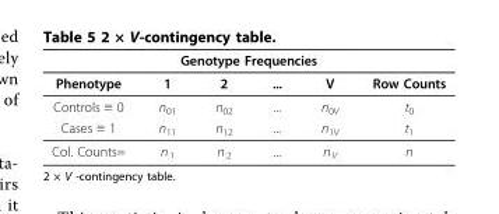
<table><thead><tr><td rowspan="2">Phenotype</td><td colspan="4">Genotype Frequencies</td><td rowspan="2">Row Counts</td></tr><tr><td>1</td><td>2</td><td>...</td><td>V</td></tr></thead><tbody><tr><td>Controls ≡ 0</td><td>n<sub>01</sub></td><td>n<sub>02</sub></td><td>...</td><td>n<sub>0V</sub></td><td>t<sub>0</sub></td></tr><tr><td>Cases ≡ 1</td><td>n<sub>11</sub></td><td>n<sub>12</sub></td><td>...</td><td>n<sub>1V</sub></td><td>t<sub>1</sub></td></tr><tr><td>Col. Counts=</td><td>n<sub>:1</sub></td><td>n<sub>:2</sub></td><td>...</td><td>n<sub>:V</sub></td><td>n</td></tr></tbody></table>